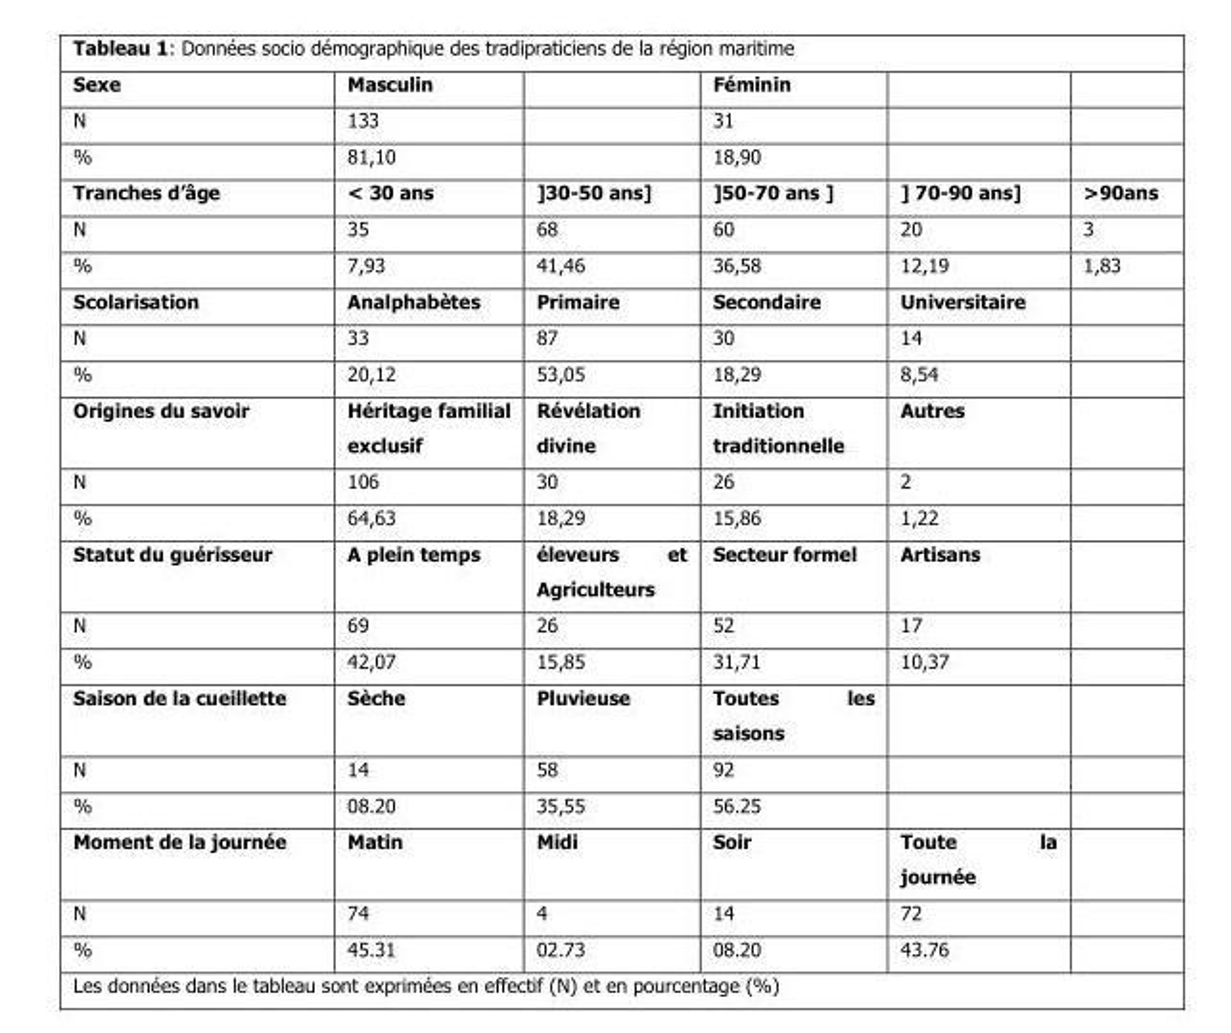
<table><thead><tr><td>Sexe</td><td>Masculin</td><td></td><td>Féminin</td><td></td><td></td></tr></thead><tbody><tr><td>N</td><td>133</td><td></td><td>31</td><td></td><td></td></tr><tr><td>%</td><td>81,10</td><td></td><td>18,90</td><td></td><td></td></tr><tr><td>Tranches d’âge</td><td>&lt; 30 ans</td><td>]30-50 ans]</td><td>]50-70 ans ]</td><td>] 70-90 ans]</td><td>&gt;90ans</td></tr><tr><td>N</td><td>35</td><td>68</td><td>60</td><td>20</td><td>3</td></tr><tr><td>%</td><td>7,93</td><td>41,46</td><td>36,58</td><td>12,19</td><td>1,83</td></tr><tr><td>Scolarisation</td><td>Analphabètes</td><td>Primaire</td><td>Secondaire</td><td>Universitaire</td><td></td></tr><tr><td>N</td><td>33</td><td>87</td><td>30</td><td>14</td><td></td></tr><tr><td>%</td><td>20,12</td><td>53,05</td><td>18,29</td><td>8,54</td><td></td></tr><tr><td>Origines du savoir</td><td>Héritage familial exclusif</td><td>Révélation divine</td><td>Initiation traditionnelle</td><td>Autres</td><td></td></tr><tr><td>N</td><td>106</td><td>30</td><td>26</td><td>2</td><td></td></tr><tr><td>%</td><td>64,63</td><td>18,29</td><td>15,86</td><td>1,22</td><td></td></tr><tr><td>Statut du guérisseur</td><td>A plein temps</td><td>éleveurs et Agriculteurs</td><td>Secteur formel</td><td>Artisans</td><td></td></tr><tr><td>N</td><td>69</td><td>26</td><td>52</td><td>17</td><td></td></tr><tr><td>%</td><td>42,07</td><td>15,85</td><td>31,71</td><td>10,37</td><td></td></tr><tr><td>Saison de la cueillette</td><td>Sèche</td><td>Pluvieuse</td><td>Toutes les saisons</td><td></td><td></td></tr><tr><td>N</td><td>14</td><td>58</td><td>92</td><td></td><td></td></tr><tr><td>%</td><td>08.20</td><td>35,55</td><td>56.25</td><td></td><td></td></tr><tr><td>Moment de la journée</td><td>Matin</td><td>Midi</td><td>Soir</td><td>Toute la journée</td><td></td></tr><tr><td>N</td><td>74</td><td>4</td><td>14</td><td>72</td><td></td></tr><tr><td>%</td><td>45.31</td><td>02.73</td><td>08.20</td><td>43.76</td><td></td></tr></tbody></table>